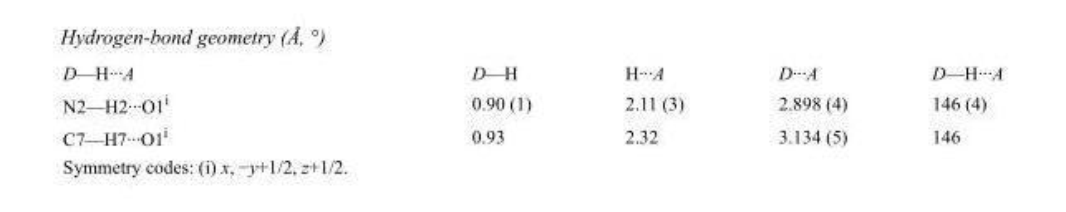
<table><tbody><tr><td>D—H···A</td><td>D—H</td><td>H···A</td><td>D···A</td><td>D—H···A</td></tr><tr><td>N2—H2···O1<sup>i</sup></td><td>0.90 (1)</td><td>2.11 (3)</td><td>2.898 (4)</td><td>146 (4)</td></tr><tr><td>C7—H7···O1<sup>i</sup></td><td>0.93</td><td>2.32</td><td>3.134 (5)</td><td>146</td></tr></tbody></table>